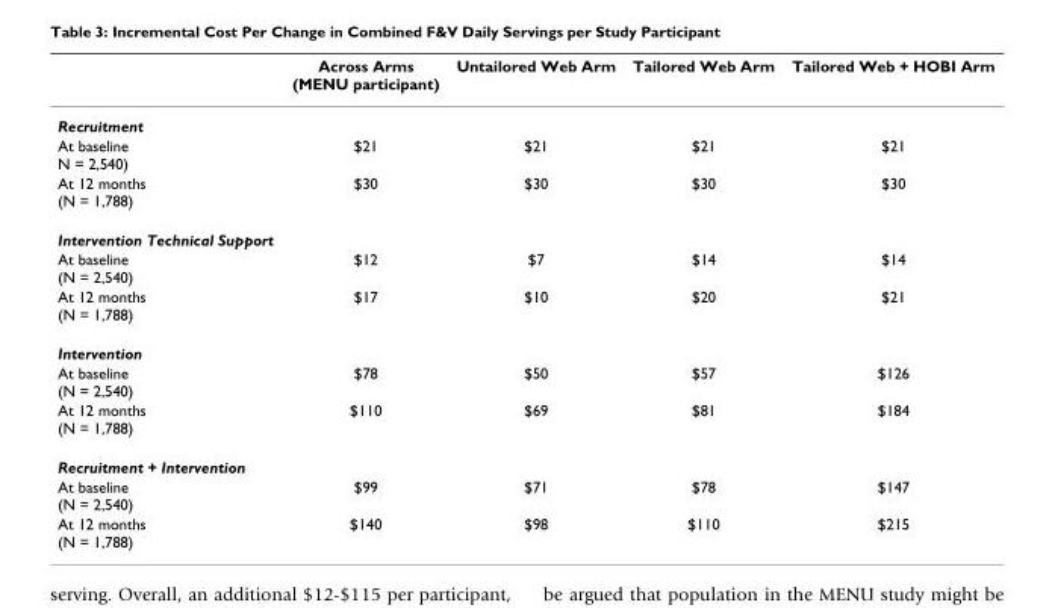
<table><thead><tr><td></td><td>Across Arms (MENU participant)</td><td>Untailored Web Arm</td><td>Tailored Web Arm</td><td>Tailored Web + HOBI Arm</td></tr></thead><tbody><tr><td colspan="5">Recruitment</td></tr><tr><td>At baseline N = 2,540)</td><td>$21</td><td>$21</td><td>$21</td><td>$21</td></tr><tr><td>At 12 months (N = 1,788)</td><td>$30</td><td>$30</td><td>$30</td><td>$30</td></tr><tr><td colspan="5">Intervention Technical Support</td></tr><tr><td>At baseline (N = 2,540)</td><td>$12</td><td>$7</td><td>$14</td><td>$14</td></tr><tr><td>At 12 months (N = 1,788)</td><td>$17</td><td>$10</td><td>$20</td><td>$21</td></tr><tr><td colspan="5">Intervention</td></tr><tr><td>At baseline (N = 2,540)</td><td>$78</td><td>$50</td><td>$57</td><td>$126</td></tr><tr><td>At 12 months (N = 1,788)</td><td>$110</td><td>$69</td><td>$81</td><td>$184</td></tr><tr><td colspan="5">Recruitment + Intervention</td></tr><tr><td>At baseline (N = 2,540)</td><td>$99</td><td>$71</td><td>$78</td><td>$147</td></tr><tr><td>At 12 months (N = 1,788)</td><td>$140</td><td>$98</td><td>$110</td><td>$215</td></tr></tbody></table>